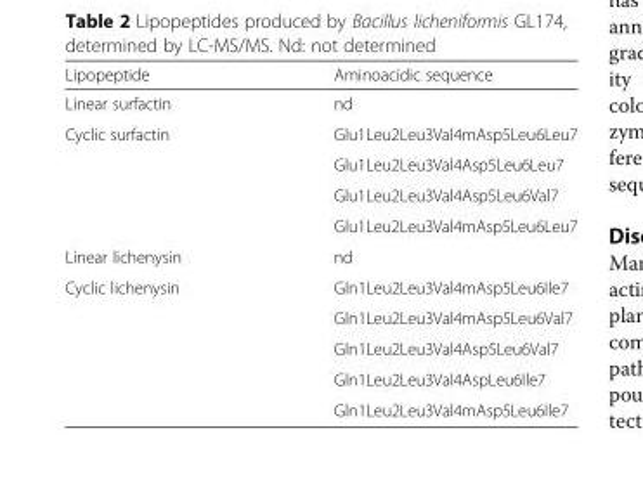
<table><thead><tr><td>Lipopeptide</td><td>Aminoacidic sequence</td></tr></thead><tbody><tr><td>Linear surfactin</td><td>nd</td></tr><tr><td rowspan="4">Cyclic surfactin</td><td>Glu1Leu2Leu3Val4mAsp5Leu6Leu7</td></tr><tr><td>Glu1Leu2Leu3Val4Asp5Leu6Leu7</td></tr><tr><td>Glu1Leu2Leu3Val4Asp5Leu6Val7</td></tr><tr><td>Glu1Leu2Leu3Val4mAsp5Leu6Leu7</td></tr><tr><td>Linear lichenysin</td><td>nd</td></tr><tr><td rowspan="5">Cyclic lichenysin</td><td>Gln1Leu2Leu3Val4mAsp5Leu6Ile7</td></tr><tr><td>Gln1Leu2Leu3Val4mAsp5Leu6Val7</td></tr><tr><td>Gln1Leu2Leu3Val4Asp5Leu6Val7</td></tr><tr><td>Gln1Leu2Leu3Val4AspLeu6Ile7</td></tr><tr><td>Gln1Leu2Leu3Val4mAsp5Leu6Ile7</td></tr></tbody></table>